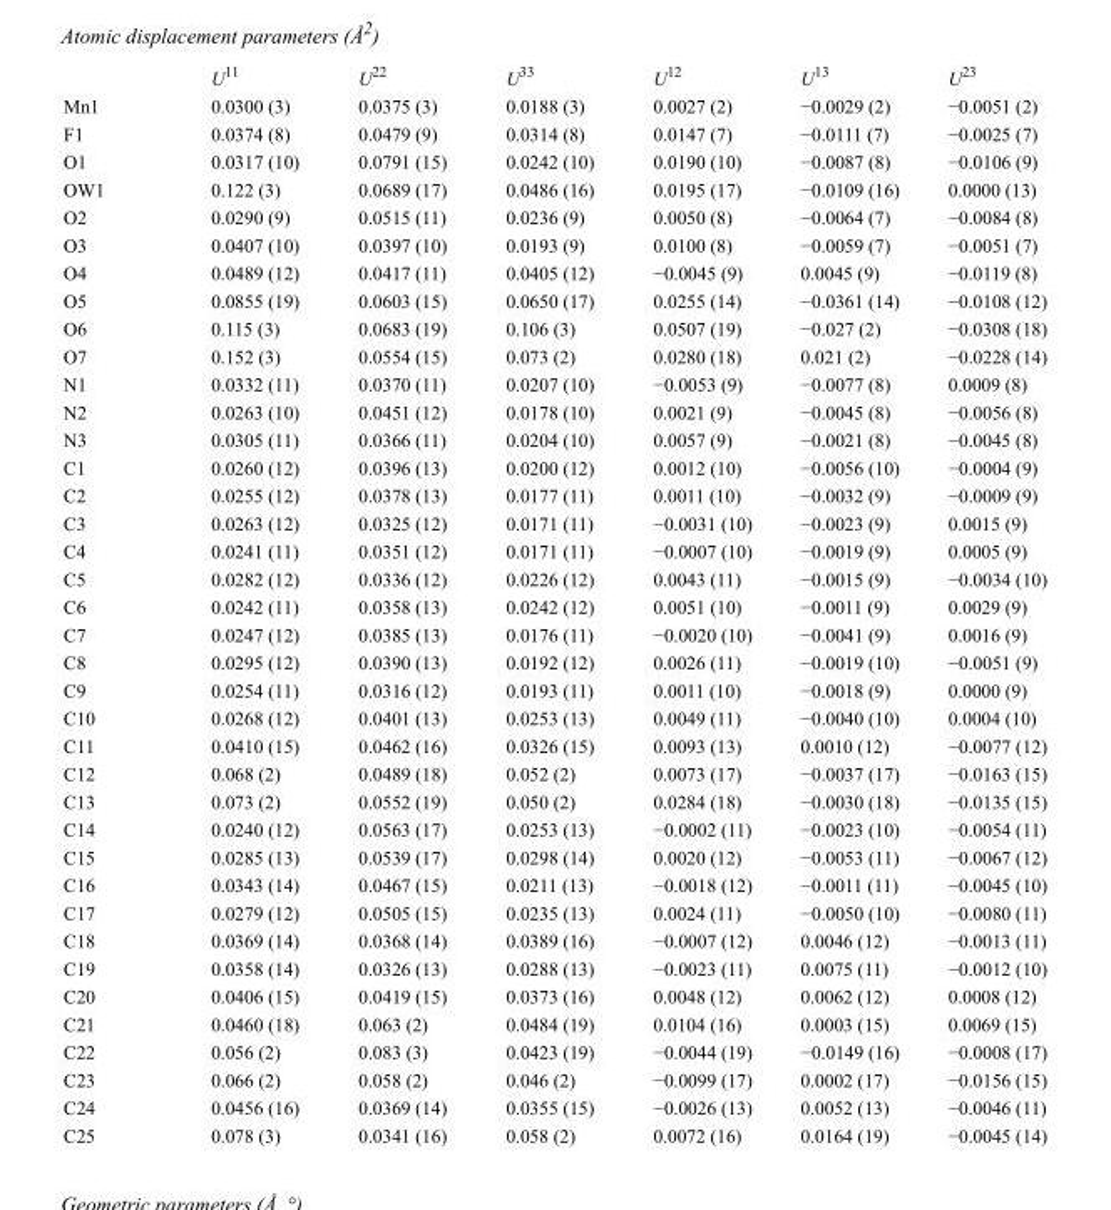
<table><thead><tr><td></td><td>U<sup>11</sup></td><td>U<sup>22</sup></td><td>U<sup>33</sup></td><td>U<sup>12</sup></td><td>U<sup>13</sup></td><td>U<sup>23</sup></td></tr></thead><tbody><tr><td>Mn1</td><td>0.0300 (3)</td><td>0.0375 (3)</td><td>0.0188 (3)</td><td>0.0027 (2)</td><td>−0.0029 (2)</td><td>−0.0051 (2)</td></tr><tr><td>F1</td><td>0.0374 (8)</td><td>0.0479 (9)</td><td>0.0314 (8)</td><td>0.0147 (7)</td><td>−0.0111 (7)</td><td>−0.0025 (7)</td></tr><tr><td>O1</td><td>0.0317 (10)</td><td>0.0791 (15)</td><td>0.0242 (10)</td><td>0.0190 (10)</td><td>−0.0087 (8)</td><td>−0.0106 (9)</td></tr><tr><td>OW1</td><td>0.122 (3)</td><td>0.0689 (17)</td><td>0.0486 (16)</td><td>0.0195 (17)</td><td>−0.0109 (16)</td><td>0.0000 (13)</td></tr><tr><td>O2</td><td>0.0290 (9)</td><td>0.0515 (11)</td><td>0.0236 (9)</td><td>0.0050 (8)</td><td>−0.0064 (7)</td><td>−0.0084 (8)</td></tr><tr><td>O3</td><td>0.0407 (10)</td><td>0.0397 (10)</td><td>0.0193 (9)</td><td>0.0100 (8)</td><td>−0.0059 (7)</td><td>−0.0051 (7)</td></tr><tr><td>O4</td><td>0.0489 (12)</td><td>0.0417 (11)</td><td>0.0405 (12)</td><td>−0.0045 (9)</td><td>0.0045 (9)</td><td>−0.0119 (8)</td></tr><tr><td>O5</td><td>0.0855 (19)</td><td>0.0603 (15)</td><td>0.0650 (17)</td><td>0.0255 (14)</td><td>−0.0361 (14)</td><td>−0.0108 (12)</td></tr><tr><td>O6</td><td>0.115 (3)</td><td>0.0683 (19)</td><td>0.106 (3)</td><td>0.0507 (19)</td><td>−0.027 (2)</td><td>−0.0308 (18)</td></tr><tr><td>O7</td><td>0.152 (3)</td><td>0.0554 (15)</td><td>0.073 (2)</td><td>0.0280 (18)</td><td>0.021 (2)</td><td>−0.0228 (14)</td></tr><tr><td>N1</td><td>0.0332 (11)</td><td>0.0370 (11)</td><td>0.0207 (10)</td><td>−0.0053 (9)</td><td>−0.0077 (8)</td><td>0.0009 (8)</td></tr><tr><td>N2</td><td>0.0263 (10)</td><td>0.0451 (12)</td><td>0.0178 (10)</td><td>0.0021 (9)</td><td>−0.0045 (8)</td><td>−0.0056 (8)</td></tr><tr><td>N3</td><td>0.0305 (11)</td><td>0.0366 (11)</td><td>0.0204 (10)</td><td>0.0057 (9)</td><td>−0.0021 (8)</td><td>−0.0045 (8)</td></tr><tr><td>C1</td><td>0.0260 (12)</td><td>0.0396 (13)</td><td>0.0200 (12)</td><td>0.0012 (10)</td><td>−0.0056 (10)</td><td>−0.0004 (9)</td></tr><tr><td>C2</td><td>0.0255 (12)</td><td>0.0378 (13)</td><td>0.0177 (11)</td><td>0.0011 (10)</td><td>−0.0032 (9)</td><td>−0.0009 (9)</td></tr><tr><td>C3</td><td>0.0263 (12)</td><td>0.0325 (12)</td><td>0.0171 (11)</td><td>−0.0031 (10)</td><td>−0.0023 (9)</td><td>0.0015 (9)</td></tr><tr><td>C4</td><td>0.0241 (11)</td><td>0.0351 (12)</td><td>0.0171 (11)</td><td>−0.0007 (10)</td><td>−0.0019 (9)</td><td>0.0005 (9)</td></tr><tr><td>C5</td><td>0.0282 (12)</td><td>0.0336 (12)</td><td>0.0226 (12)</td><td>0.0043 (11)</td><td>−0.0015 (9)</td><td>−0.0034 (10)</td></tr><tr><td>C6</td><td>0.0242 (11)</td><td>0.0358 (13)</td><td>0.0242 (12)</td><td>0.0051 (10)</td><td>−0.0011 (9)</td><td>0.0029 (9)</td></tr><tr><td>C7</td><td>0.0247 (12)</td><td>0.0385 (13)</td><td>0.0176 (11)</td><td>−0.0020 (10)</td><td>−0.0041 (9)</td><td>0.0016 (9)</td></tr><tr><td>C8</td><td>0.0295 (12)</td><td>0.0390 (13)</td><td>0.0192 (12)</td><td>0.0026 (11)</td><td>−0.0019 (10)</td><td>−0.0051 (9)</td></tr><tr><td>C9</td><td>0.0254 (11)</td><td>0.0316 (12)</td><td>0.0193 (11)</td><td>0.0011 (10)</td><td>−0.0018 (9)</td><td>0.0000 (9)</td></tr><tr><td>C10</td><td>0.0268 (12)</td><td>0.0401 (13)</td><td>0.0253 (13)</td><td>0.0049 (11)</td><td>−0.0040 (10)</td><td>0.0004 (10)</td></tr><tr><td>C11</td><td>0.0410 (15)</td><td>0.0462 (16)</td><td>0.0326 (15)</td><td>0.0093 (13)</td><td>0.0010 (12)</td><td>−0.0077 (12)</td></tr><tr><td>C12</td><td>0.068 (2)</td><td>0.0489 (18)</td><td>0.052 (2)</td><td>0.0073 (17)</td><td>−0.0037 (17)</td><td>−0.0163 (15)</td></tr><tr><td>C13</td><td>0.073 (2)</td><td>0.0552 (19)</td><td>0.050 (2)</td><td>0.0284 (18)</td><td>−0.0030 (18)</td><td>−0.0135 (15)</td></tr><tr><td>C14</td><td>0.0240 (12)</td><td>0.0563 (17)</td><td>0.0253 (13)</td><td>−0.0002 (11)</td><td>−0.0023 (10)</td><td>−0.0054 (11)</td></tr><tr><td>C15</td><td>0.0285 (13)</td><td>0.0539 (17)</td><td>0.0298 (14)</td><td>0.0020 (12)</td><td>−0.0053 (11)</td><td>−0.0067 (12)</td></tr><tr><td>C16</td><td>0.0343 (14)</td><td>0.0467 (15)</td><td>0.0211 (13)</td><td>−0.0018 (12)</td><td>−0.0011 (11)</td><td>−0.0045 (10)</td></tr><tr><td>C17</td><td>0.0279 (12)</td><td>0.0505 (15)</td><td>0.0235 (13)</td><td>0.0024 (11)</td><td>−0.0050 (10)</td><td>−0.0080 (11)</td></tr><tr><td>C18</td><td>0.0369 (14)</td><td>0.0368 (14)</td><td>0.0389 (16)</td><td>−0.0007 (12)</td><td>0.0046 (12)</td><td>−0.0013 (11)</td></tr><tr><td>C19</td><td>0.0358 (14)</td><td>0.0326 (13)</td><td>0.0288 (13)</td><td>−0.0023 (11)</td><td>0.0075 (11)</td><td>−0.0012 (10)</td></tr><tr><td>C20</td><td>0.0406 (15)</td><td>0.0419 (15)</td><td>0.0373 (16)</td><td>0.0048 (12)</td><td>0.0062 (12)</td><td>0.0008 (12)</td></tr><tr><td>C21</td><td>0.0460 (18)</td><td>0.063 (2)</td><td>0.0484 (19)</td><td>0.0104 (16)</td><td>0.0003 (15)</td><td>0.0069 (15)</td></tr><tr><td>C22</td><td>0.056 (2)</td><td>0.083 (3)</td><td>0.0423 (19)</td><td>−0.0044 (19)</td><td>−0.0149 (16)</td><td>−0.0008 (17)</td></tr><tr><td>C23</td><td>0.066 (2)</td><td>0.058 (2)</td><td>0.046 (2)</td><td>−0.0099 (17)</td><td>0.0002 (17)</td><td>−0.0156 (15)</td></tr><tr><td>C24</td><td>0.0456 (16)</td><td>0.0369 (14)</td><td>0.0355 (15)</td><td>−0.0026 (13)</td><td>0.0052 (13)</td><td>−0.0046 (11)</td></tr><tr><td>C25</td><td>0.078 (3)</td><td>0.0341 (16)</td><td>0.058 (2)</td><td>0.0072 (16)</td><td>0.0164 (19)</td><td>−0.0045 (14)</td></tr></tbody></table>